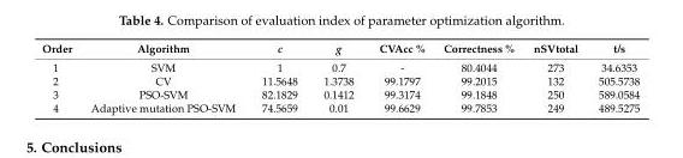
<table><thead><tr><td>Order</td><td>Algorithm</td><td>c</td><td>g</td><td>CVAcc %</td><td>Correctness %</td><td>nSVtotal</td><td>t/s</td></tr></thead><tbody><tr><td>1</td><td>SVM</td><td>1</td><td>0.7</td><td>-</td><td>80.4044</td><td>273</td><td>34.6353</td></tr><tr><td>2</td><td>CV</td><td>11.5648</td><td>1.3738</td><td>99.1797</td><td>99.2015</td><td>132</td><td>505.5738</td></tr><tr><td>3</td><td>PSO-SVM</td><td>82.1829</td><td>0.1412</td><td>99.3174</td><td>99.1848</td><td>250</td><td>589.0584</td></tr><tr><td>4</td><td>Adaptive mutation PSO-SVM</td><td>74.5659</td><td>0.01</td><td>99.6629</td><td>99.7853</td><td>249</td><td>489.5275</td></tr></tbody></table>